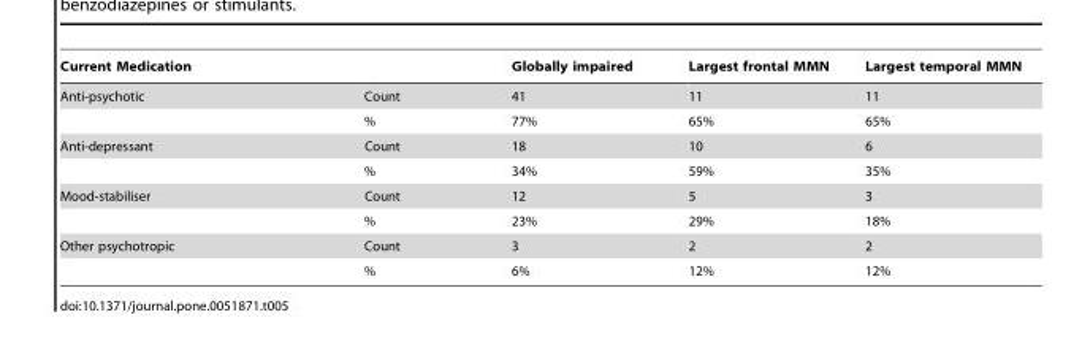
<table><thead><tr><td>Current Medication</td><td></td><td>Globally impaired</td><td>Largest frontal MMN</td><td>Largest temporal MMN</td></tr></thead><tbody><tr><td rowspan="2">Anti-psychotic</td><td>Count</td><td>41</td><td>11</td><td>11</td></tr><tr><td>%</td><td>77%</td><td>65%</td><td>65%</td></tr><tr><td rowspan="2">Anti-depressant</td><td>Count</td><td>18</td><td>10</td><td>6</td></tr><tr><td>%</td><td>34%</td><td>59%</td><td>35%</td></tr><tr><td rowspan="2">Mood-stabiliser</td><td>Count</td><td>12</td><td>5</td><td>3</td></tr><tr><td>%</td><td>23%</td><td>29%</td><td>18%</td></tr><tr><td rowspan="2">Other psychotropic</td><td>Count</td><td>3</td><td>2</td><td>2</td></tr><tr><td>%</td><td>6%</td><td>12%</td><td>12%</td></tr></tbody></table>